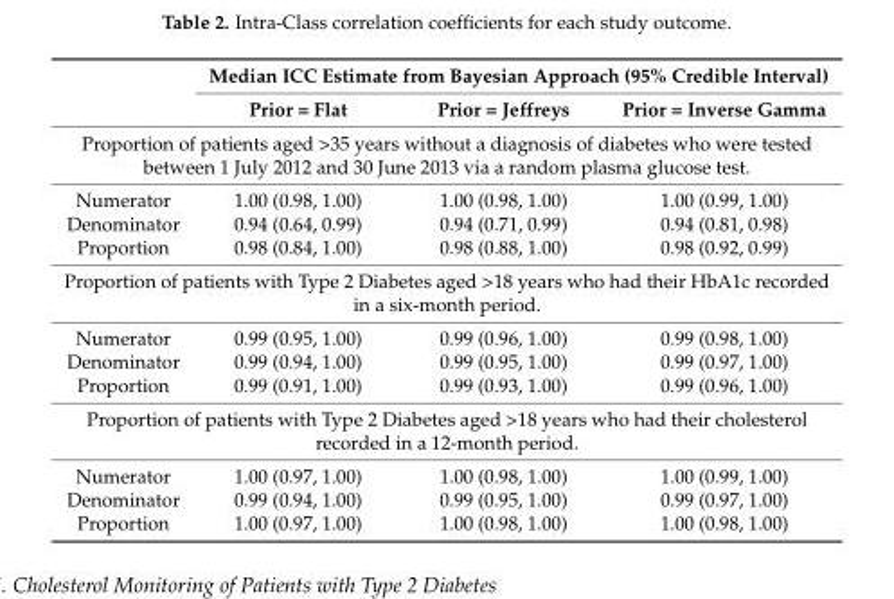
<table><thead><tr><td rowspan="2"></td><td colspan="3">Median ICC Estimate from Bayesian Approach (95% Credible Interval)</td></tr><tr><td>Prior = Flat</td><td>Prior = Jeffreys</td><td>Prior = Inverse Gamma</td></tr></thead><tbody><tr><td colspan="4">Proportion of patients aged &gt;35 years without a diagnosis of diabetes who were tested between 1 July 2012 and 30 June 2013 via a random plasma glucose test.</td></tr><tr><td>Numerator</td><td>1.00 (0.98, 1.00)</td><td>1.00 (0.98, 1.00)</td><td>1.00 (0.99, 1.00)</td></tr><tr><td>Denominator</td><td>0.94 (0.64, 0.99)</td><td>0.94 (0.71, 0.99)</td><td>0.94 (0.81, 0.98)</td></tr><tr><td>Proportion</td><td>0.98 (0.84, 1.00)</td><td>0.98 (0.88, 1.00)</td><td>0.98 (0.92, 0.99)</td></tr><tr><td colspan="4">Proportion of patients with Type 2 Diabetes aged &gt;18 years who had their HbA1c recorded in a six-month period.</td></tr><tr><td>Numerator</td><td>0.99 (0.95, 1.00)</td><td>0.99 (0.96, 1.00)</td><td>0.99 (0.98, 1.00)</td></tr><tr><td>Denominator</td><td>0.99 (0.94, 1.00)</td><td>0.99 (0.95, 1.00)</td><td>0.99 (0.97, 1.00)</td></tr><tr><td>Proportion</td><td>0.99 (0.91, 1.00)</td><td>0.99 (0.93, 1.00)</td><td>0.99 (0.96, 1.00)</td></tr><tr><td colspan="4">Proportion of patients with Type 2 Diabetes aged &gt;18 years who had their cholesterol recorded in a 12-month period.</td></tr><tr><td>Numerator</td><td>1.00 (0.97, 1.00)</td><td>1.00 (0.98, 1.00)</td><td>1.00 (0.99, 1.00)</td></tr><tr><td>Denominator</td><td>0.99 (0.94, 1.00)</td><td>0.99 (0.95, 1.00)</td><td>0.99 (0.97, 1.00)</td></tr><tr><td>Proportion</td><td>1.00 (0.97, 1.00)</td><td>1.00 (0.98, 1.00)</td><td>1.00 (0.98, 1.00)</td></tr></tbody></table>